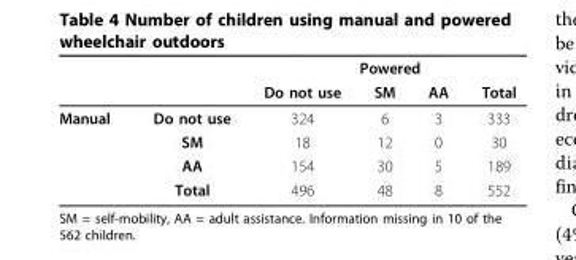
<table><thead><tr><td rowspan="2"></td><td rowspan="2"></td><td colspan="4">Powered</td></tr><tr><td>Do not use</td><td>SM</td><td>AA</td><td>Total</td></tr></thead><tbody><tr><td rowspan="4">Manual</td><td>Do not use</td><td>324</td><td>6</td><td>3</td><td>333</td></tr><tr><td>SM</td><td>18</td><td>12</td><td>0</td><td>30</td></tr><tr><td>AA</td><td>154</td><td>30</td><td>5</td><td>189</td></tr><tr><td>Total</td><td>496</td><td>48</td><td>8</td><td>552</td></tr></tbody></table>